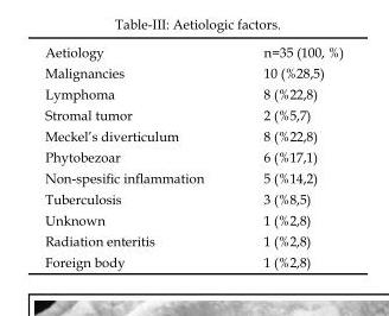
<table><tbody><tr><td>Aetiology</td><td>n=35 (100, %)</td></tr><tr><td>Malignancies</td><td>10 (%28,5)</td></tr><tr><td>Lymphoma</td><td>8 (%22,8)</td></tr><tr><td>Stromal tumor</td><td>2 (%5,7)</td></tr><tr><td>Meckel’s diverticulum</td><td>8 (%22,8)</td></tr><tr><td>Phytobezoar</td><td>6 (%17,1)</td></tr><tr><td>Non-spesific inflammation</td><td>5 (%14,2)</td></tr><tr><td>Tuberculosis</td><td>3 (%8,5)</td></tr><tr><td>Unknown</td><td>1 (%2,8)</td></tr><tr><td>Radiation enteritis</td><td>1 (%2,8)</td></tr><tr><td>Foreign body</td><td>1 (%2,8)</td></tr></tbody></table>